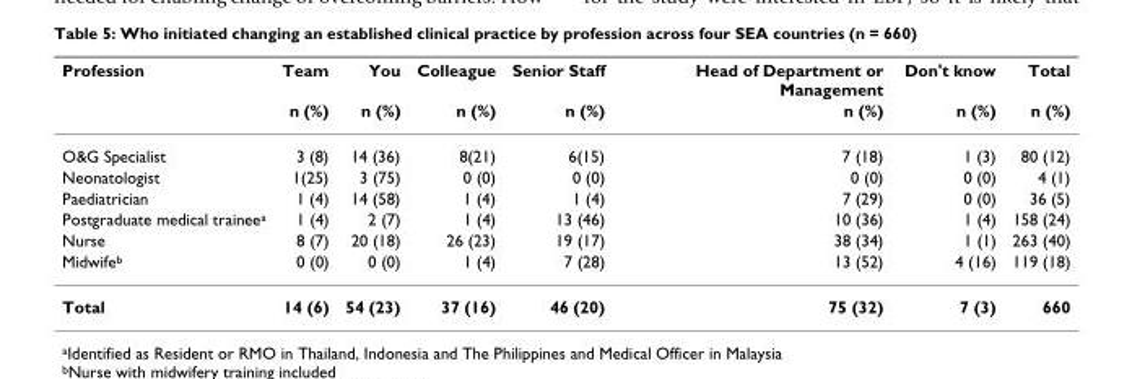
<table><thead><tr><td rowspan="2">Profession</td><td rowspan="2">Team n (%)</td><td rowspan="2">You n (%)</td><td rowspan="2">Colleague n (%)</td><td rowspan="2">Senior Staff n (%)</td><td rowspan="2">Head of Department or Management n (%)</td><td rowspan="2">Don&#x27;t know n (%)</td><td rowspan="2">Total n (%)</td></tr><tr></tr></thead><tbody><tr><td>O&amp;G Specialist</td><td>3 (8)</td><td>14 (36)</td><td>8(21)</td><td>6(15)</td><td>7 (18)</td><td>1 (3)</td><td>80 (12)</td></tr><tr><td>Neonatologist</td><td>1(25)</td><td>3 (75)</td><td>0 (0)</td><td>0 (0)</td><td>0 (0)</td><td>0 (0)</td><td>4 (1)</td></tr><tr><td>Paediatrician</td><td>1 (4)</td><td>14 (58)</td><td>1 (4)</td><td>1 (4)</td><td>7 (29)</td><td>0 (0)</td><td>36 (5)</td></tr><tr><td>Postgraduate medical trainee<sup>a</sup></td><td>1 (4)</td><td>2 (7)</td><td>1 (4)</td><td>13 (46)</td><td>10 (36)</td><td>1 (4)</td><td>158 (24)</td></tr><tr><td>Nurse</td><td>8 (7)</td><td>20 (18)</td><td>26 (23)</td><td>19 (17)</td><td>38 (34)</td><td>1 (1)</td><td>263 (40)</td></tr><tr><td>Midwife<sup>b</sup></td><td>0 (0)</td><td>0 (0)</td><td>1 (4)</td><td>7 (28)</td><td>13 (52)</td><td>4 (16)</td><td>119 (18)</td></tr><tr><td>Total</td><td>14 (6)</td><td>54 (23)</td><td>37 (16)</td><td>46 (20)</td><td>75 (32)</td><td>7 (3)</td><td>660</td></tr></tbody></table>